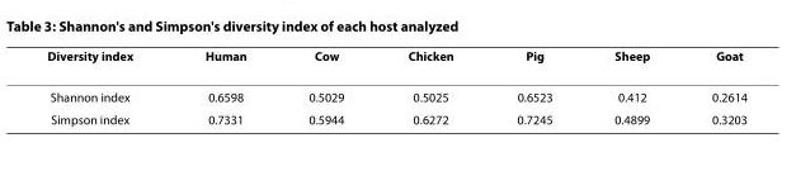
<table><thead><tr><td>Diversity index</td><td>Human</td><td>Cow</td><td>Chicken</td><td>Pig</td><td>Sheep</td><td>Goat</td></tr></thead><tbody><tr><td>Shannon index</td><td>0.6598</td><td>0.5029</td><td>0.5025</td><td>0.6523</td><td>0.412</td><td>0.2614</td></tr><tr><td>Simpson index</td><td>0.7331</td><td>0.5944</td><td>0.6272</td><td>0.7245</td><td>0.4899</td><td>0.3203</td></tr></tbody></table>